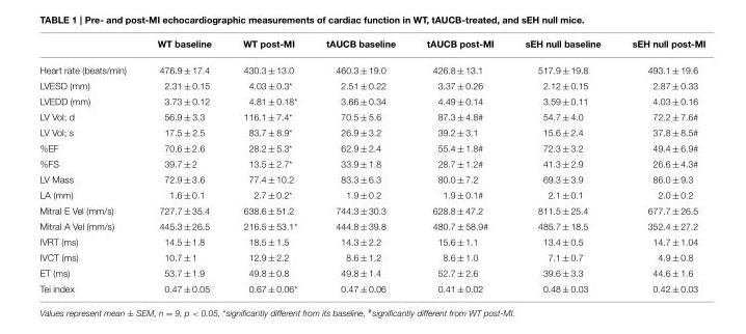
<table><thead><tr><td></td><td>WT baseline</td><td>WT post-MI</td><td>tAUCB baseline</td><td>tAUCB post-MI</td><td>sEH null baseline</td><td>sEH null post-MI</td></tr></thead><tbody><tr><td>Heart rate (beats/min)</td><td>476.9 ± 17.4</td><td>430.3 ± 13.0</td><td>460.3 ± 19.0</td><td>426.8 ± 13.1</td><td>517.9 ± 19.8</td><td>493.1 ± 19.6</td></tr><tr><td>LVESD (mm)</td><td>2.31 ± 0.15</td><td>4.03 ± 0.3*</td><td>2.51 ± 0.22</td><td>3.37 ± 0.26</td><td>2.12 ± 0.15</td><td>2.87 ± 0.33</td></tr><tr><td>LVEDD (mm)</td><td>3.73 ± 0.12</td><td>4.81 ± 0.18*</td><td>3.66 ± 0.34</td><td>4.49 ± 0.14</td><td>3.59 ± 0.11</td><td>4.03 ± 0.16</td></tr><tr><td>LV Vol; d</td><td>56.9 ± 3.3</td><td>116.1 ± 7.4*</td><td>70.5 ± 5.6</td><td>87.3 ± 4.8<sup>#</sup></td><td>54.7 ± 4.0</td><td>72.2 ± 7.6<sup>#</sup></td></tr><tr><td>LV Vol; s</td><td>17.5 ± 2.5</td><td>83.7 ± 8.9*</td><td>26.9 ± 3.2</td><td>39.2 ± 3.1</td><td>15.6 ± 2.4</td><td>37.8 ± 8.5<sup>#</sup></td></tr><tr><td>%EF</td><td>70.6 ± 2.6</td><td>28.2 ± 5.3*</td><td>62.9 ± 2.4</td><td>55.4 ± 1.8<sup>#</sup></td><td>72.3 ± 3.2</td><td>49.4 ± 6.9<sup>#</sup></td></tr><tr><td>%FS</td><td>39.7 ± 2</td><td>13.5 ± 2.7*</td><td>33.9 ± 1.8</td><td>28.7 ± 1.2<sup>#</sup></td><td>41.3 ± 2.9</td><td>26.6 ± 4.3<sup>#</sup></td></tr><tr><td>LV Mass</td><td>72.9 ± 3.6</td><td>77.4 ± 10.2</td><td>83.3 ± 6.3</td><td>80.0 ± 7.2</td><td>69.3 ± 3.9</td><td>86.0 ± 9.3</td></tr><tr><td>LA (mm)</td><td>1.6 ± 0.1</td><td>2.7 ± 0.2*</td><td>1.9 ± 0.2</td><td>1.9 ± 0.1<sup>#</sup></td><td>2.1 ± 0.1</td><td>2.0 ± 0.2</td></tr><tr><td>Mitral E Vel (mm/s)</td><td>727.7 ± 35.4</td><td>638.6 ± 51.2</td><td>744.3 ± 30.3</td><td>628.8 ± 47.2</td><td>811.5 ± 25.4</td><td>677.7 ± 26.5</td></tr><tr><td>Mitral A Vel (mm/s)</td><td>445.3 ± 26.5</td><td>216.5 ± 53.1*</td><td>444.8 ± 39.8</td><td>480.7 ± 58.9<sup>#</sup></td><td>485.7 ± 18.5</td><td>352.4 ± 27.2</td></tr><tr><td>IVRT (ms)</td><td>14.5 ± 1.8</td><td>18.5 ± 1.5</td><td>14.3 ± 2.2</td><td>15.6 ± 1.1</td><td>13.4 ± 0.5</td><td>14.7 ± 1.04</td></tr><tr><td>IVCT (ms)</td><td>10.7 ± 1</td><td>12.9 ± 2.2</td><td>8.6 ± 1.2</td><td>8.6 ± 1.0</td><td>7.1 ± 0.7</td><td>4.9 ± 0.8</td></tr><tr><td>ET (ms)</td><td>53.7 ± 1.9</td><td>49.8 ± 0.8</td><td>49.8 ± 1.4</td><td>52.7 ± 2.6</td><td>39.6 ± 3.3</td><td>44.6 ± 1.6</td></tr><tr><td>Tei index</td><td>0.47 ± 0.05</td><td>0.67 ± 0.06*</td><td>0.47 ± 0.06</td><td>0.41 ± 0.02</td><td>0.48 ± 0.03</td><td>0.42 ± 0.03</td></tr></tbody></table>